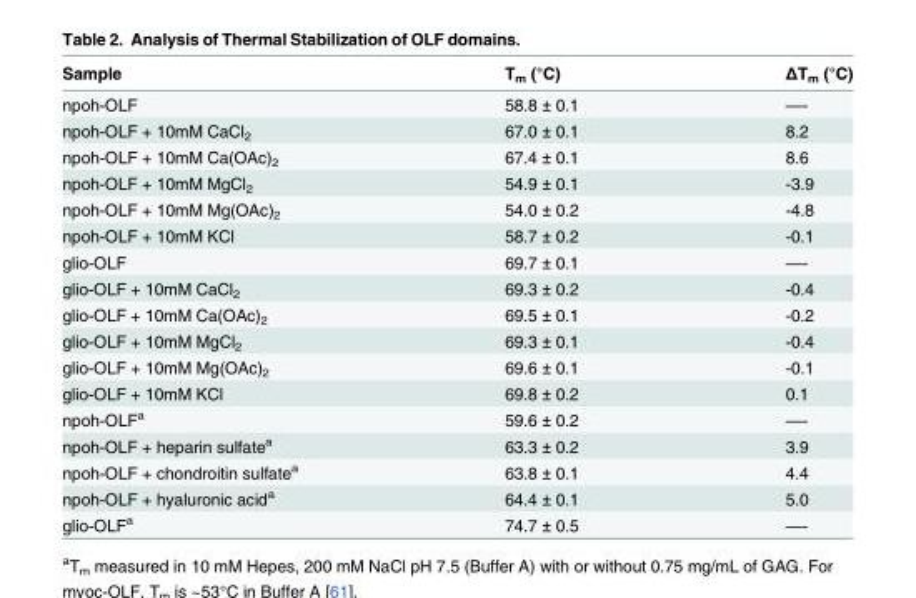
<table><thead><tr><td>Sample</td><td>T<sub>m</sub> (°C)</td><td>ΔT<sub>m</sub> (°C)</td></tr></thead><tbody><tr><td>npoh-OLF</td><td>58.8 ± 0.1</td><td>—-</td></tr><tr><td>npoh-OLF + 10mM CaCl<sub>2</sub></td><td>67.0 ± 0.1</td><td>8.2</td></tr><tr><td>npoh-OLF + 10mM Ca(OAc)<sub>2</sub></td><td>67.4 ± 0.1</td><td>8.6</td></tr><tr><td>npoh-OLF + 10mM MgCl<sub>2</sub></td><td>54.9 ± 0.1</td><td>-3.9</td></tr><tr><td>npoh-OLF + 10mM Mg(OAc)<sub>2</sub></td><td>54.0 ± 0.2</td><td>-4.8</td></tr><tr><td>npoh-OLF + 10mM KCl</td><td>58.7 ± 0.2</td><td>-0.1</td></tr><tr><td>glio-OLF</td><td>69.7 ± 0.1</td><td>—-</td></tr><tr><td>glio-OLF + 10mM CaCl<sub>2</sub></td><td>69.3 ± 0.2</td><td>-0.4</td></tr><tr><td>glio-OLF + 10mM Ca(OAc)<sub>2</sub></td><td>69.5 ± 0.1</td><td>-0.2</td></tr><tr><td>glio-OLF + 10mM MgCl<sub>2</sub></td><td>69.3 ± 0.1</td><td>-0.4</td></tr><tr><td>glio-OLF + 10mM Mg(OAc)<sub>2</sub></td><td>69.6 ± 0.1</td><td>-0.1</td></tr><tr><td>glio-OLF + 10mM KCl</td><td>69.8 ± 0.2</td><td>0.1</td></tr><tr><td>npoh-OLF<sup>a</sup></td><td>59.6 ± 0.2</td><td>—-</td></tr><tr><td>npoh-OLF + heparin sulfate<sup>a</sup></td><td>63.3 ± 0.2</td><td>3.9</td></tr><tr><td>npoh-OLF + chondroitin sulfate<sup>a</sup></td><td>63.8 ± 0.1</td><td>4.4</td></tr><tr><td>npoh-OLF + hyaluronic acid<sup>a</sup></td><td>64.4 ± 0.1</td><td>5.0</td></tr><tr><td>glio-OLF<sup>a</sup></td><td>74.7 ± 0.5</td><td>—-</td></tr></tbody></table>